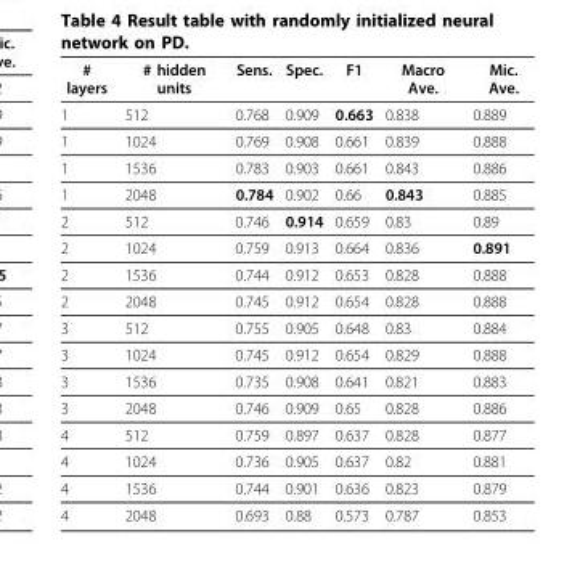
<table><thead><tr><td># layers</td><td># hidden units</td><td>Sens.</td><td>Spec.</td><td>F1</td><td>Macro Ave.</td><td>Mic. Ave.</td></tr></thead><tbody><tr><td>1</td><td>512</td><td>0.768</td><td>0.909</td><td>0.663</td><td>0.838</td><td>0.889</td></tr><tr><td>1</td><td>1024</td><td>0.769</td><td>0.908</td><td>0.661</td><td>0.839</td><td>0.888</td></tr><tr><td>1</td><td>1536</td><td>0.783</td><td>0.903</td><td>0.661</td><td>0.843</td><td>0.886</td></tr><tr><td>1</td><td>2048</td><td>0.784</td><td>0.902</td><td>0.66</td><td>0.843</td><td>0.885</td></tr><tr><td>2</td><td>512</td><td>0.746</td><td>0.914</td><td>0.659</td><td>0.83</td><td>0.89</td></tr><tr><td>2</td><td>1024</td><td>0.759</td><td>0.913</td><td>0.664</td><td>0.836</td><td>0.891</td></tr><tr><td>2</td><td>1536</td><td>0.744</td><td>0.912</td><td>0.653</td><td>0.828</td><td>0.888</td></tr><tr><td>2</td><td>2048</td><td>0.745</td><td>0.912</td><td>0.654</td><td>0.828</td><td>0.888</td></tr><tr><td>3</td><td>512</td><td>0.755</td><td>0.905</td><td>0.648</td><td>0.83</td><td>0.884</td></tr><tr><td>3</td><td>1024</td><td>0.745</td><td>0.912</td><td>0.654</td><td>0.829</td><td>0.888</td></tr><tr><td>3</td><td>1536</td><td>0.735</td><td>0.908</td><td>0.641</td><td>0.821</td><td>0.883</td></tr><tr><td>3</td><td>2048</td><td>0.746</td><td>0.909</td><td>0.65</td><td>0.828</td><td>0.886</td></tr><tr><td>4</td><td>512</td><td>0.759</td><td>0.897</td><td>0.637</td><td>0.828</td><td>0.877</td></tr><tr><td>4</td><td>1024</td><td>0.736</td><td>0.905</td><td>0.637</td><td>0.82</td><td>0.881</td></tr><tr><td>4</td><td>1536</td><td>0.744</td><td>0.901</td><td>0.636</td><td>0.823</td><td>0.879</td></tr><tr><td>4</td><td>2048</td><td>0.693</td><td>0.88</td><td>0.573</td><td>0.787</td><td>0.853</td></tr></tbody></table>